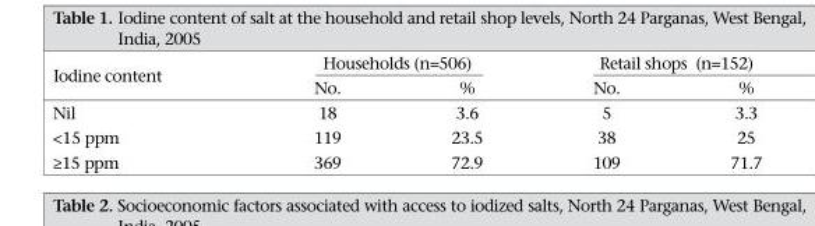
<table><thead><tr><td rowspan="2">Iodine content</td><td colspan="2">Households (n=506)</td><td colspan="2">Retail shops (n=152)</td></tr><tr><td>No.</td><td>%</td><td>No.</td><td>%</td></tr></thead><tbody><tr><td>Nil</td><td>18</td><td>3.6</td><td>5</td><td>3.3</td></tr><tr><td>&lt;15 ppm</td><td>119</td><td>23.5</td><td>38</td><td>25</td></tr><tr><td>≥15 ppm</td><td>369</td><td>72.9</td><td>109</td><td>71.7</td></tr></tbody></table>